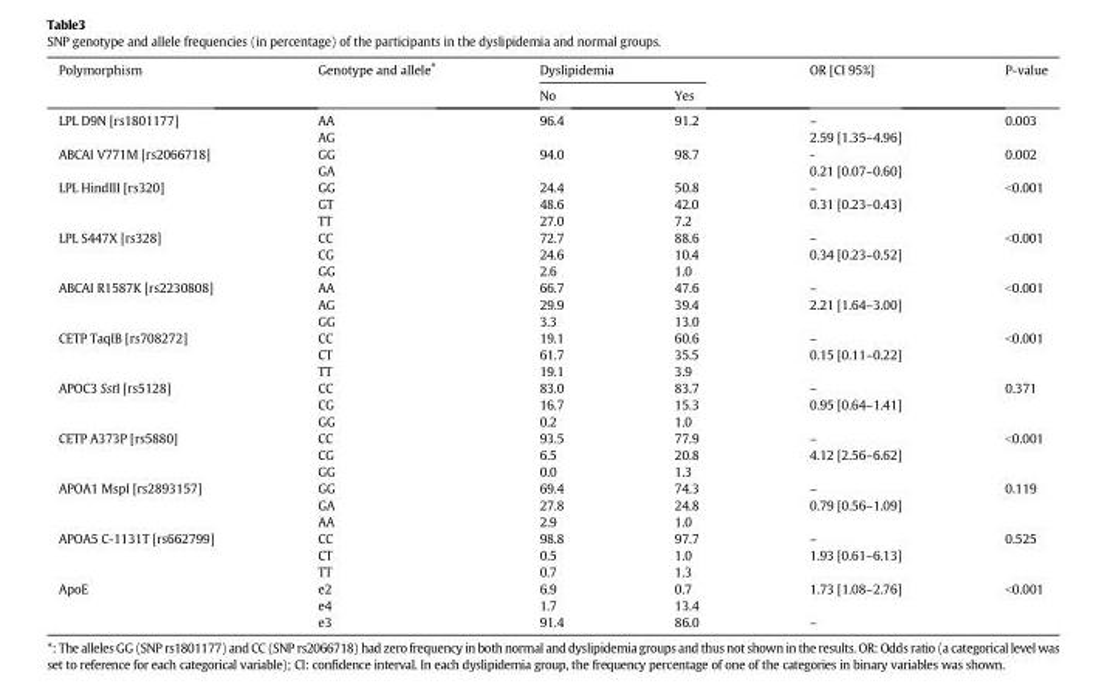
<table><thead><tr><td rowspan="2">Polymorphism</td><td rowspan="2">Genotype and allele<sup>⁎</sup></td><td colspan="2">Dyslipidemia</td><td rowspan="2">OR [CI 95%]</td><td rowspan="2">P-value</td></tr><tr><td>No</td><td>Yes</td></tr></thead><tbody><tr><td rowspan="2">LPL D9N [rs1801177]</td><td>AA</td><td>96.4</td><td>91.2</td><td>–</td><td rowspan="2">0.003</td></tr><tr><td>AG</td><td></td><td></td><td>2.59 [1.35–4.96]</td></tr><tr><td rowspan="2">ABCAI V771M [rs2066718]</td><td>GG</td><td>94.0</td><td>98.7</td><td>-</td><td rowspan="2">0.002</td></tr><tr><td>GA</td><td></td><td></td><td>0.21 [0.07–0.60]</td></tr><tr><td rowspan="3">LPL HindIII [rs320]</td><td>GG</td><td>24.4</td><td>50.8</td><td>–</td><td rowspan="3">&lt;0.001</td></tr><tr><td>GT</td><td>48.6</td><td>42.0</td><td>0.31 [0.23–0.43]</td></tr><tr><td>TT</td><td>27.0</td><td>7.2</td><td></td></tr><tr><td rowspan="3">LPL S447X [rs328]</td><td>CC</td><td>72.7</td><td>88.6</td><td>–</td><td rowspan="3">&lt;0.001</td></tr><tr><td>CG</td><td>24.6</td><td>10.4</td><td>0.34 [0.23–0.52]</td></tr><tr><td>GG</td><td>2.6</td><td>1.0</td><td></td></tr><tr><td rowspan="3">ABCAI R1587K [rs2230808]</td><td>AA</td><td>66.7</td><td>47.6</td><td>–</td><td rowspan="3">&lt;0.001</td></tr><tr><td>AG</td><td>29.9</td><td>39.4</td><td>2.21 [1.64–3.00]</td></tr><tr><td>GG</td><td>3.3</td><td>13.0</td><td></td></tr><tr><td rowspan="3">CETP TaqIB [rs708272]</td><td>CC</td><td>19.1</td><td>60.6</td><td>–</td><td rowspan="3">&lt;0.001</td></tr><tr><td>CT</td><td>61.7</td><td>35.5</td><td>0.15 [0.11–0.22]</td></tr><tr><td>TT</td><td>19.1</td><td>3.9</td><td></td></tr><tr><td rowspan="3">APOC3 SstI [rs5128]</td><td>CC</td><td>83.0</td><td>83.7</td><td>–</td><td rowspan="3">0.371</td></tr><tr><td>CG</td><td>16.7</td><td>15.3</td><td>0.95 [0.64–1.41]</td></tr><tr><td>GG</td><td>0.2</td><td>1.0</td><td></td></tr><tr><td rowspan="3">CETP A373P [rs5880]</td><td>CC</td><td>93.5</td><td>77.9</td><td>–</td><td rowspan="3">&lt;0.001</td></tr><tr><td>CG</td><td>6.5</td><td>20.8</td><td>4.12 [2.56–6.62]</td></tr><tr><td>GG</td><td>0.0</td><td>1.3</td><td></td></tr><tr><td rowspan="3">APOA1 MspI [rs2893157]</td><td>GG</td><td>69.4</td><td>74.3</td><td>–</td><td rowspan="3">0.119</td></tr><tr><td>GA</td><td>27.8</td><td>24.8</td><td>0.79 [0.56–1.09]</td></tr><tr><td>AA</td><td>2.9</td><td>1.0</td><td></td></tr><tr><td rowspan="3">APOA5 C-1131T [rs662799]</td><td>CC</td><td>98.8</td><td>97.7</td><td>–</td><td rowspan="3">0.525</td></tr><tr><td>CT</td><td>0.5</td><td>1.0</td><td>1.93 [0.61–6.13]</td></tr><tr><td>TT</td><td>0.7</td><td>1.3</td><td></td></tr><tr><td rowspan="3">ApoE</td><td>e2</td><td>6.9</td><td>0.7</td><td>1.73 [1.08–2.76]</td><td rowspan="3">&lt;0.001</td></tr><tr><td>e4</td><td>1.7</td><td>13.4</td><td></td></tr><tr><td>e3</td><td>91.4</td><td>86.0</td><td>–</td></tr></tbody></table>